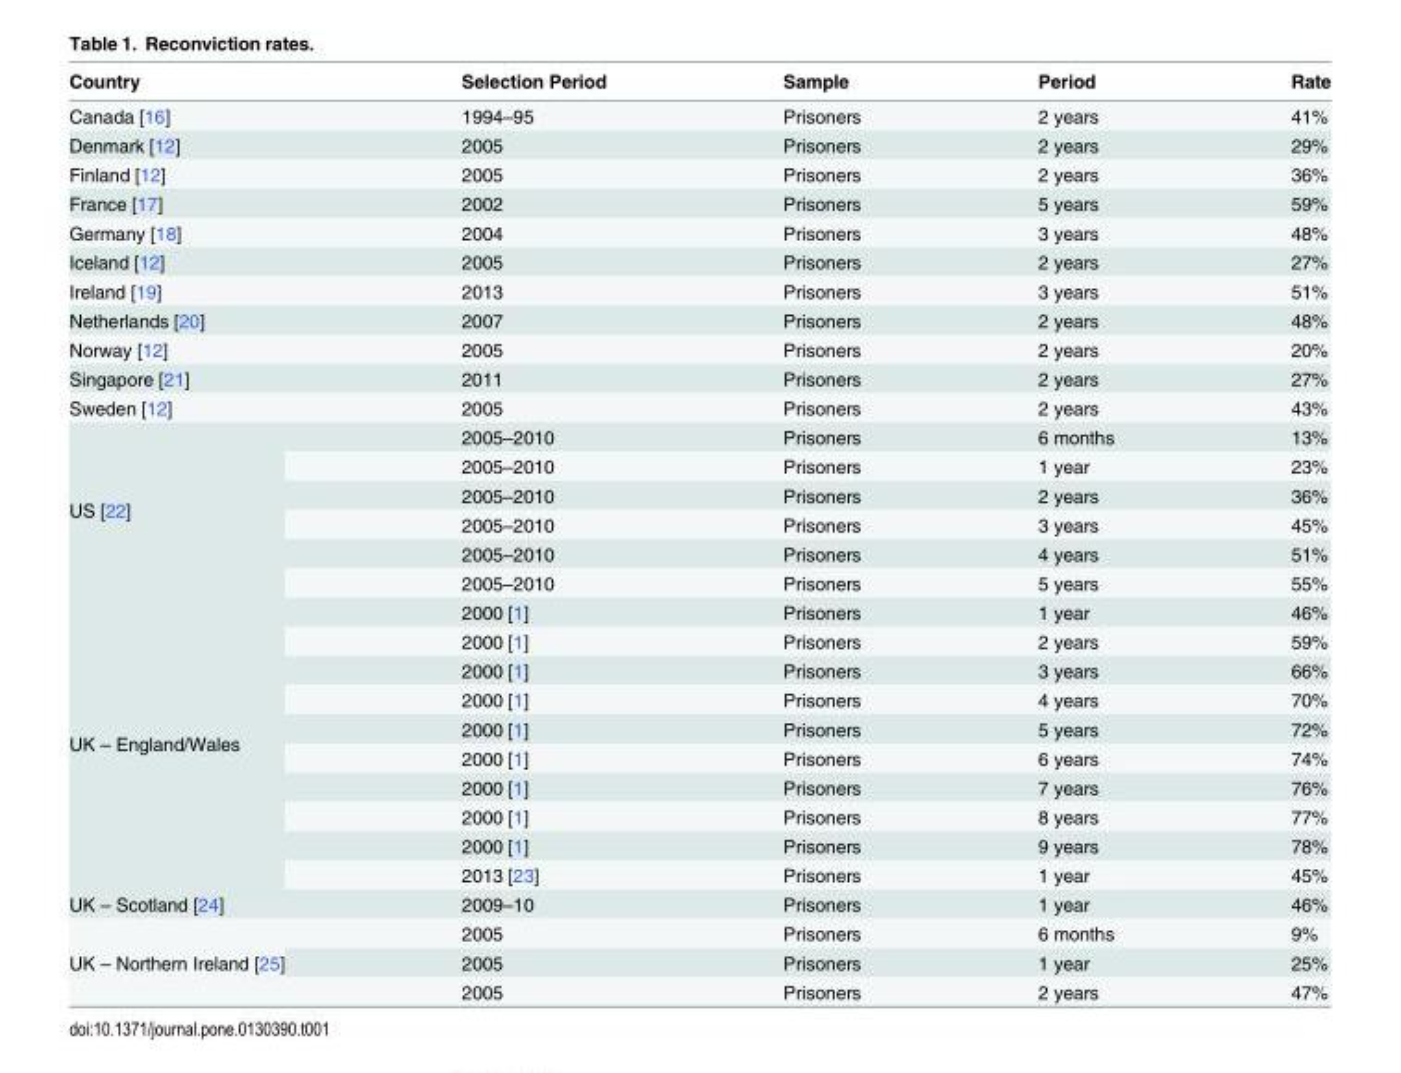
<table><thead><tr><td>Country</td><td>Selection Period</td><td>Sample</td><td>Period</td><td>Rate</td></tr></thead><tbody><tr><td>Canada [16]</td><td>1994–95</td><td>Prisoners</td><td>2 years</td><td>41%</td></tr><tr><td>Denmark [12]</td><td>2005</td><td>Prisoners</td><td>2 years</td><td>29%</td></tr><tr><td>Finland [12]</td><td>2005</td><td>Prisoners</td><td>2 years</td><td>36%</td></tr><tr><td>France [17]</td><td>2002</td><td>Prisoners</td><td>5 years</td><td>59%</td></tr><tr><td>Germany [18]</td><td>2004</td><td>Prisoners</td><td>3 years</td><td>48%</td></tr><tr><td>Iceland [12]</td><td>2005</td><td>Prisoners</td><td>2 years</td><td>27%</td></tr><tr><td>Ireland [19]</td><td>2013</td><td>Prisoners</td><td>3 years</td><td>51%</td></tr><tr><td>Netherlands [20]</td><td>2007</td><td>Prisoners</td><td>2 years</td><td>48%</td></tr><tr><td>Norway [12]</td><td>2005</td><td>Prisoners</td><td>2 years</td><td>20%</td></tr><tr><td>Singapore [21]</td><td>2011</td><td>Prisoners</td><td>2 years</td><td>27%</td></tr><tr><td>Sweden [12]</td><td>2005</td><td>Prisoners</td><td>2 years</td><td>43%</td></tr><tr><td rowspan="6">US [22]</td><td>2005–2010</td><td>Prisoners</td><td>6 months</td><td>13%</td></tr><tr><td>2005–2010</td><td>Prisoners</td><td>1 year</td><td>23%</td></tr><tr><td>2005–2010</td><td>Prisoners</td><td>2 years</td><td>36%</td></tr><tr><td>2005–2010</td><td>Prisoners</td><td>3 years</td><td>45%</td></tr><tr><td>2005–2010</td><td>Prisoners</td><td>4 years</td><td>51%</td></tr><tr><td>2005–2010</td><td>Prisoners</td><td>5 years</td><td>55%</td></tr><tr><td rowspan="10">UK – England/Wales</td><td>2000 [1]</td><td>Prisoners</td><td>1 year</td><td>46%</td></tr><tr><td>2000 [1]</td><td>Prisoners</td><td>2 years</td><td>59%</td></tr><tr><td>2000 [1]</td><td>Prisoners</td><td>3 years</td><td>66%</td></tr><tr><td>2000 [1]</td><td>Prisoners</td><td>4 years</td><td>70%</td></tr><tr><td>2000 [1]</td><td>Prisoners</td><td>5 years</td><td>72%</td></tr><tr><td>2000 [1]</td><td>Prisoners</td><td>6 years</td><td>74%</td></tr><tr><td>2000 [1]</td><td>Prisoners</td><td>7 years</td><td>76%</td></tr><tr><td>2000 [1]</td><td>Prisoners</td><td>8 years</td><td>77%</td></tr><tr><td>2000 [1]</td><td>Prisoners</td><td>9 years</td><td>78%</td></tr><tr><td>2013 [23]</td><td>Prisoners</td><td>1 year</td><td>45%</td></tr><tr><td>UK – Scotland [24]</td><td>2009–10</td><td>Prisoners</td><td>1 year</td><td>46%</td></tr><tr><td rowspan="3">UK – Northern Ireland [25]</td><td>2005</td><td>Prisoners</td><td>6 months</td><td>9%</td></tr><tr><td>2005</td><td>Prisoners</td><td>1 year</td><td>25%</td></tr><tr><td>2005</td><td>Prisoners</td><td>2 years</td><td>47%</td></tr></tbody></table>